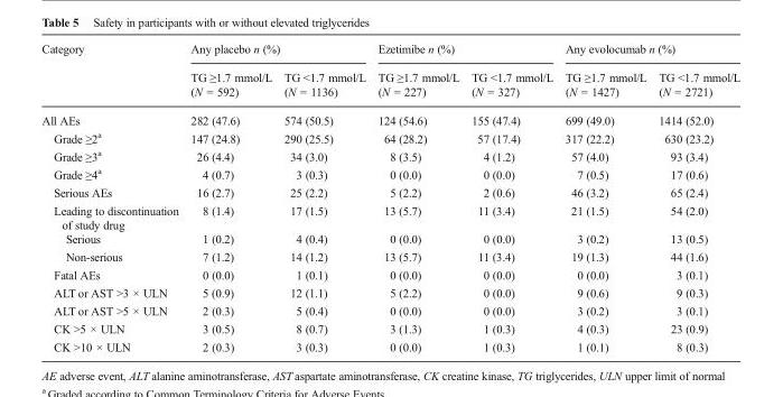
<table><thead><tr><td rowspan="2">Category</td><td colspan="2">Any placebo n (%)</td><td colspan="2">Ezetimibe n (%)</td><td colspan="2">Any evolocumab n (%)</td></tr><tr><td>TG ≥1.7 mmol/L (N = 592)</td><td>TG &lt;1.7 mmol/L (N = 1136)</td><td>TG ≥1.7 mmol/L (N = 227)</td><td>TG &lt;1.7 mmol/L (N = 327)</td><td>TG ≥1.7 mmol/L (N = 1427)</td><td>TG &lt;1.7 mmol/L (N = 2721)</td></tr></thead><tbody><tr><td>All AEs</td><td>282 (47.6)</td><td>574 (50.5)</td><td>124 (54.6)</td><td>155 (47.4)</td><td>699 (49.0)</td><td>1414 (52.0)</td></tr><tr><td>Grade ≥2<sup>a</sup></td><td>147 (24.8)</td><td>290 (25.5)</td><td>64 (28.2)</td><td>57 (17.4)</td><td>317 (22.2)</td><td>630 (23.2)</td></tr><tr><td>Grade ≥3<sup>a</sup></td><td>26 (4.4)</td><td>34 (3.0)</td><td>8 (3.5)</td><td>4 (1.2)</td><td>57 (4.0)</td><td>93 (3.4)</td></tr><tr><td>Grade ≥4<sup>a</sup></td><td>4 (0.7)</td><td>3 (0.3)</td><td>0 (0.0)</td><td>0 (0.0)</td><td>7 (0.5)</td><td>17 (0.6)</td></tr><tr><td>Serious AEs</td><td>16 (2.7)</td><td>25 (2.2)</td><td>5 (2.2)</td><td>2 (0.6)</td><td>46 (3.2)</td><td>65 (2.4)</td></tr><tr><td>Leading to discontinuation of study drug</td><td>8 (1.4)</td><td>17 (1.5)</td><td>13 (5.7)</td><td>11 (3.4)</td><td>21 (1.5)</td><td>54 (2.0)</td></tr><tr><td>Serious</td><td>1 (0.2)</td><td>4 (0.4)</td><td>0 (0.0)</td><td>0 (0.0)</td><td>3 (0.2)</td><td>13 (0.5)</td></tr><tr><td>Non-serious</td><td>7 (1.2)</td><td>14 (1.2)</td><td>13 (5.7)</td><td>11 (3.4)</td><td>19 (1.3)</td><td>44 (1.6)</td></tr><tr><td>Fatal AEs</td><td>0 (0.0)</td><td>1 (0.1)</td><td>0 (0.0)</td><td>0 (0.0)</td><td>0 (0.0)</td><td>3 (0.1)</td></tr><tr><td>ALT or AST &gt;3 × ULN</td><td>5 (0.9)</td><td>12 (1.1)</td><td>5 (2.2)</td><td>0 (0.0)</td><td>9 (0.6)</td><td>9 (0.3)</td></tr><tr><td>ALT or AST &gt;5 × ULN</td><td>2 (0.3)</td><td>5 (0.4)</td><td>0 (0.0)</td><td>0 (0.0)</td><td>3 (0.2)</td><td>3 (0.1)</td></tr><tr><td>CK &gt;5 × ULN</td><td>3 (0.5)</td><td>8 (0.7)</td><td>3 (1.3)</td><td>1 (0.3)</td><td>4 (0.3)</td><td>23 (0.9)</td></tr><tr><td>CK &gt;10 × ULN</td><td>2 (0.3)</td><td>3 (0.3)</td><td>0 (0.0)</td><td>1 (0.3)</td><td>1 (0.1)</td><td>8 (0.3)</td></tr></tbody></table>